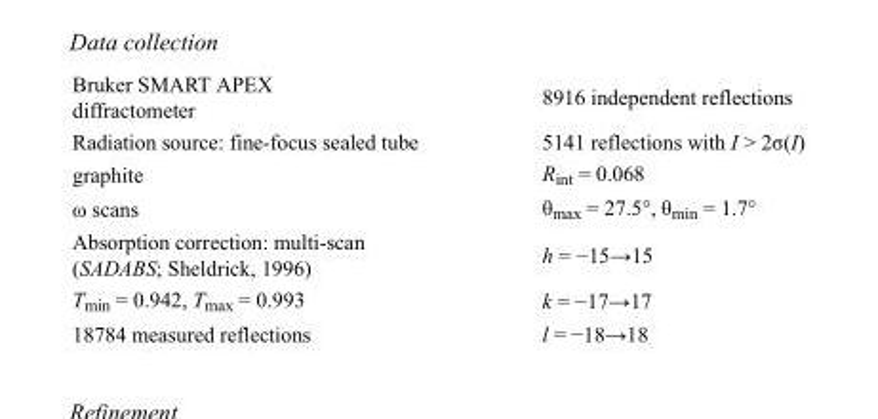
<table><tbody><tr><td>Bruker SMART APEX diffractometer</td><td>8916 independent reflections</td></tr><tr><td>Radiation source: fine-focus sealed tube</td><td>5141 reflections with I &gt; 2σ(I)</td></tr><tr><td>graphite</td><td>R<sub>int</sub> = 0.068</td></tr><tr><td>ω scans</td><td>θ<sub>max</sub> = 27.5°, θ<sub>min</sub> = 1.7°</td></tr><tr><td>Absorption correction: multi-scan (SADABS; Sheldrick, 1996)</td><td>h = −15→15</td></tr><tr><td>T<sub>min</sub> = 0.942, T<sub>max</sub> = 0.993</td><td>k = −17→17</td></tr><tr><td>18784 measured reflections</td><td>l = −18→18</td></tr></tbody></table>